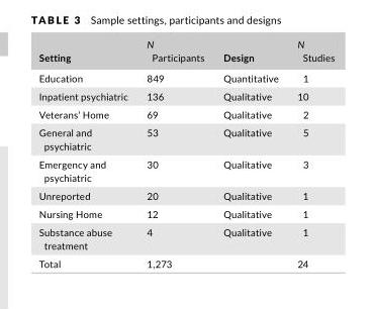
<table><thead><tr><td>Setting</td><td>N Participants</td><td>Design</td><td>N Studies</td></tr></thead><tbody><tr><td>Education</td><td>849</td><td>Quantitative</td><td>1</td></tr><tr><td>Inpatient psychiatric</td><td>136</td><td>Qualitative</td><td>10</td></tr><tr><td>Veterans’ Home</td><td>69</td><td>Qualitative</td><td>2</td></tr><tr><td>General and psychiatric</td><td>53</td><td>Qualitative</td><td>5</td></tr><tr><td>Emergency and psychiatric</td><td>30</td><td>Qualitative</td><td>3</td></tr><tr><td>Unreported</td><td>20</td><td>Qualitative</td><td>1</td></tr><tr><td>Nursing Home</td><td>12</td><td>Qualitative</td><td>1</td></tr><tr><td>Substance abuse treatment</td><td>4</td><td>Qualitative</td><td>1</td></tr><tr><td>Total</td><td>1,273</td><td></td><td>24</td></tr></tbody></table>